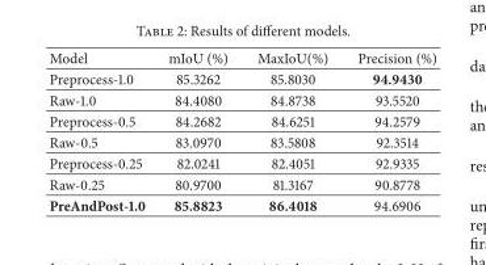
<table><thead><tr><td>Model</td><td>mIoU (%)</td><td>MaxIoU(%)</td><td>Precision (%)</td></tr></thead><tbody><tr><td>Preprocess-1.0</td><td>85.3262</td><td>85.8030</td><td>94.9430</td></tr><tr><td>Raw-1.0</td><td>84.4080</td><td>84.8738</td><td>93.5520</td></tr><tr><td>Preprocess-0.5</td><td>84.2682</td><td>84.6251</td><td>94.2579</td></tr><tr><td>Raw-0.5</td><td>83.0970</td><td>83.5808</td><td>92.3514</td></tr><tr><td>Preprocess-0.25</td><td>82.0241</td><td>82.4051</td><td>92.9335</td></tr><tr><td>Raw-0.25</td><td>80.9700</td><td>81.3167</td><td>90.8778</td></tr><tr><td>PreAndPost-1.0</td><td>85.8823</td><td>86.4018</td><td>94.6906</td></tr></tbody></table>